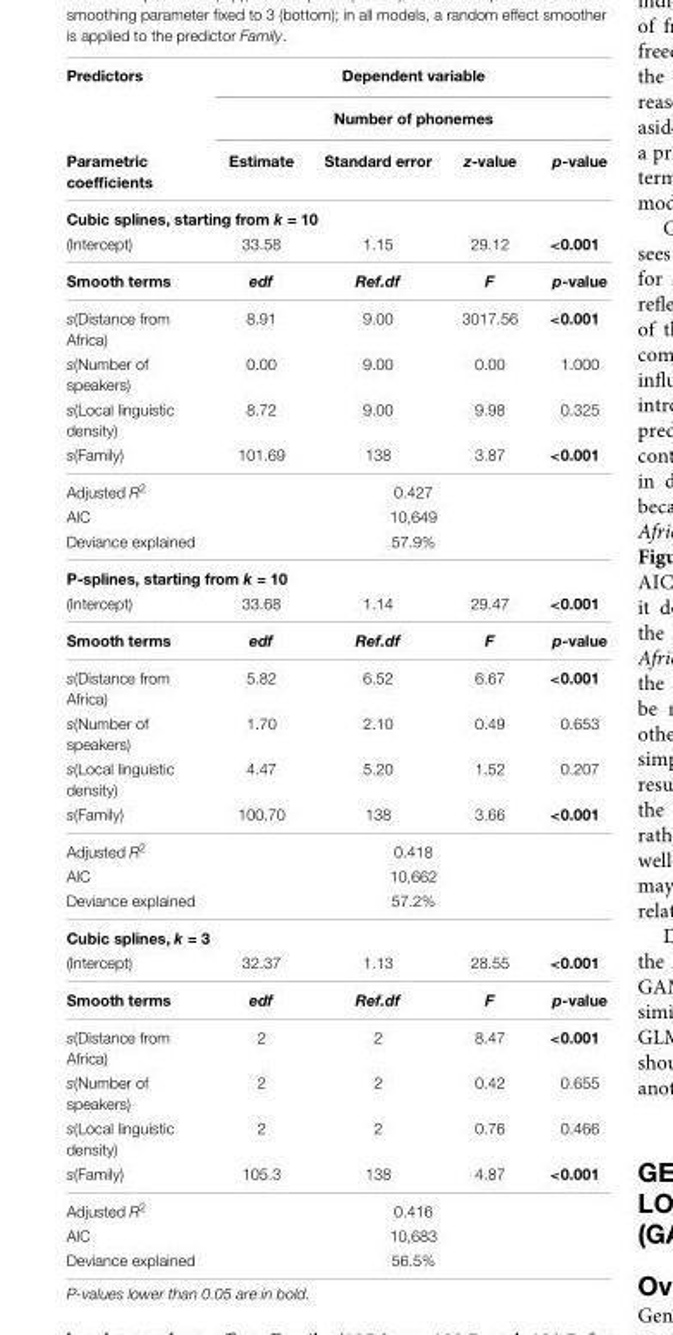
<table><thead><tr><td rowspan="3">Predictors Parametric coefficients</td><td rowspan="2" colspan="4">Dependent variable Number of phonemes</td></tr><tr></tr><tr><td>Estimate</td><td>Standard error</td><td>z-value</td><td>p-value</td></tr></thead><tbody><tr><td colspan="5">Cubic splines, starting from k = 10</td></tr><tr><td>(Intercept)</td><td>33.58</td><td>1.15</td><td>29.12</td><td>&lt;0.001</td></tr><tr><td>Smooth terms</td><td>edf</td><td>Ref.df</td><td>F</td><td>p-value</td></tr><tr><td>s(Distance from Africa)</td><td>8.91</td><td>9.00</td><td>3017.56</td><td>&lt;0.001</td></tr><tr><td>s(Number of speakers)</td><td>0.00</td><td>9.00</td><td>0.00</td><td>1.000</td></tr><tr><td>s(Local linguistic density)</td><td>8.72</td><td>9.00</td><td>9.98</td><td>0.325</td></tr><tr><td>s(Family)</td><td>101.69</td><td>138</td><td>3.87</td><td>&lt;0.001</td></tr><tr><td>Adjusted R<sup>2</sup></td><td colspan="4">0.427</td></tr><tr><td>AIC</td><td colspan="4">10,649</td></tr><tr><td>Deviance explained</td><td colspan="4">57.9%</td></tr><tr><td colspan="5">P-splines, starting from k = 10</td></tr><tr><td>(Intercept)</td><td>33.68</td><td>1.14</td><td>29.47</td><td>&lt;0.001</td></tr><tr><td>Smooth terms</td><td>edf</td><td>Ref.df</td><td>F</td><td>p-value</td></tr><tr><td>s(Distance from Africa)</td><td>5.82</td><td>6.52</td><td>6.67</td><td>&lt;0.001</td></tr><tr><td>s(Number of speakers)</td><td>1.70</td><td>2.10</td><td>0.49</td><td>0.653</td></tr><tr><td>s(Local linguistic density)</td><td>4.47</td><td>5.20</td><td>1.52</td><td>0.207</td></tr><tr><td>s(Family)</td><td>100.70</td><td>138</td><td>3.66</td><td>&lt;0.001</td></tr><tr><td>Adjusted R<sup>2</sup></td><td colspan="4">0.418</td></tr><tr><td>AIC</td><td colspan="4">10,662</td></tr><tr><td>Deviance explained</td><td colspan="4">57.2%</td></tr><tr><td colspan="5">Cubic splines, k = 3</td></tr><tr><td>(Intercept)</td><td>32.37</td><td>1.13</td><td>28.55</td><td>&lt;0.001</td></tr><tr><td>Smooth terms</td><td>edf</td><td>Ref.df</td><td>F</td><td>p-value</td></tr><tr><td>s(Distance from Africa)</td><td>2</td><td>2</td><td>8.47</td><td>&lt;0.001</td></tr><tr><td>s(Number of speakers)</td><td>2</td><td>2</td><td>0.42</td><td>0.655</td></tr><tr><td>s(Local linguistic density)</td><td>2</td><td>2</td><td>0.76</td><td>0.466</td></tr><tr><td>s(Family)</td><td>105.3</td><td>138</td><td>4.87</td><td>&lt;0.001</td></tr><tr><td>Adjusted R<sup>2</sup></td><td colspan="4">0.416</td></tr><tr><td>AIC</td><td colspan="4">10,683</td></tr><tr><td>Deviance explained</td><td colspan="4">56.5%</td></tr></tbody></table>